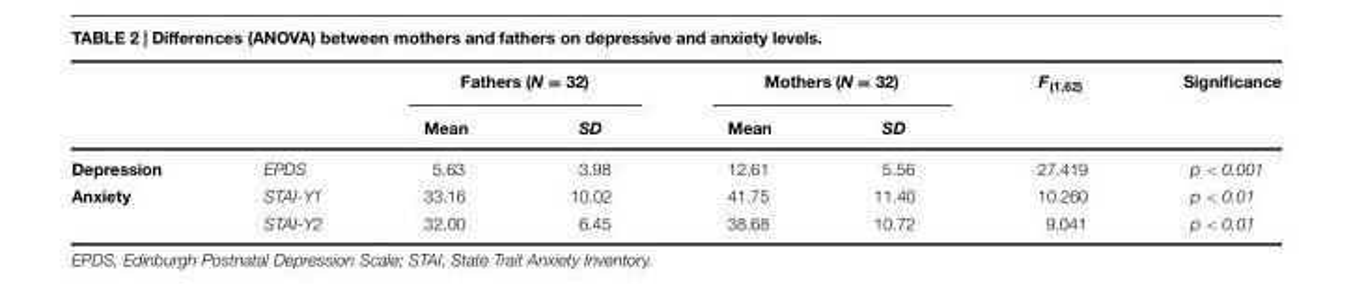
<table><thead><tr><td rowspan="2"></td><td rowspan="2"></td><td colspan="2">Fathers (N = 32)</td><td colspan="2">Mothers (N = 32)</td><td rowspan="2">F<sub>(1,62)</sub></td><td rowspan="2">Significance</td></tr><tr><td>Mean</td><td>SD</td><td>Mean</td><td>SD</td></tr></thead><tbody><tr><td>Depression</td><td>EPDS</td><td>5.63</td><td>3.98</td><td>12.61</td><td>5.56</td><td>27.419</td><td>p &lt; 0.001</td></tr><tr><td rowspan="2">Anxiety</td><td>STAI-Y1</td><td>33.16</td><td>10.02</td><td>41.75</td><td>11.40</td><td>10.260</td><td>p &lt; 0.01</td></tr><tr><td>STAI-Y2</td><td>32.00</td><td>6.45</td><td>38.68</td><td>10.72</td><td>9.041</td><td>p &lt; 0.01</td></tr></tbody></table>